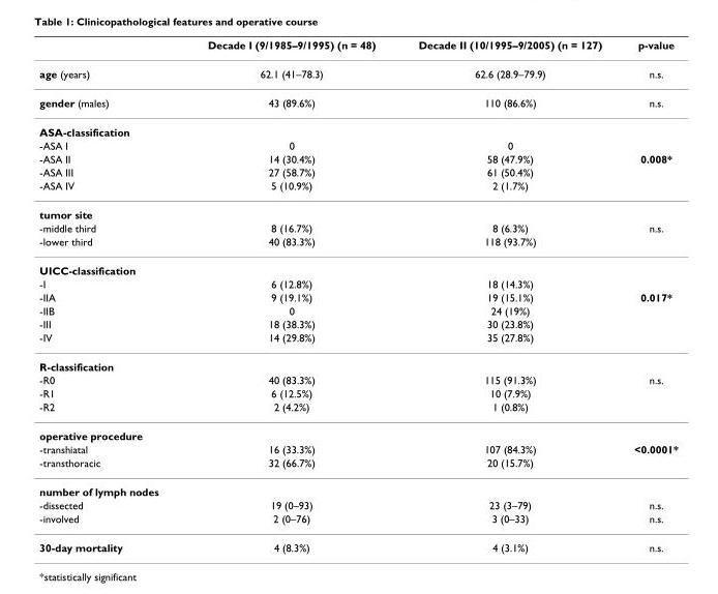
<table><thead><tr><td></td><td>Decade I (9/1985–9/1995) (n = 48)</td><td>Decade II (10/1995–9/2005) (n = 127)</td><td>p-value</td></tr></thead><tbody><tr><td>age (years)</td><td>62.1 (41–78.3)</td><td>62.6 (28.9–79.9)</td><td>n.s.</td></tr><tr><td>gender (males)</td><td>43 (89.6%)</td><td>110 (86.6%)</td><td>n.s.</td></tr><tr><td colspan="4">ASA-classification</td></tr><tr><td>-ASA I</td><td>0</td><td>0</td><td></td></tr><tr><td>-ASA II</td><td>14 (30.4%)</td><td>58 (47.9%)</td><td>0.008*</td></tr><tr><td>-ASA III</td><td>27 (58.7%)</td><td>61 (50.4%)</td><td></td></tr><tr><td>-ASA IV</td><td>5 (10.9%)</td><td>2 (1.7%)</td><td></td></tr><tr><td colspan="4">tumor site</td></tr><tr><td>-middle third</td><td>8 (16.7%)</td><td>8 (6.3%)</td><td>n.s.</td></tr><tr><td>-lower third</td><td>40 (83.3%)</td><td>118 (93.7%)</td><td></td></tr><tr><td colspan="4">UICC-classification</td></tr><tr><td>-I</td><td>6 (12.8%)</td><td>18 (14.3%)</td><td></td></tr><tr><td>-IIA</td><td>9 (19.1%)</td><td>19 (15.1%)</td><td>0.017*</td></tr><tr><td>-IIB</td><td>0</td><td>24 (19%)</td><td></td></tr><tr><td>-III</td><td>18 (38.3%)</td><td>30 (23.8%)</td><td></td></tr><tr><td>-IV</td><td>14 (29.8%)</td><td>35 (27.8%)</td><td></td></tr><tr><td colspan="4">R-classification</td></tr><tr><td>-R0</td><td>40 (83.3%)</td><td>115 (91.3%)</td><td>n.s.</td></tr><tr><td>-R1</td><td>6 (12.5%)</td><td>10 (7.9%)</td><td></td></tr><tr><td>-R2</td><td>2 (4.2%)</td><td>1 (0.8%)</td><td></td></tr><tr><td colspan="4">operative procedure</td></tr><tr><td>-transhiatal</td><td>16 (33.3%)</td><td>107 (84.3%)</td><td>&lt;0.0001*</td></tr><tr><td>-transthoracic</td><td>32 (66.7%)</td><td>20 (15.7%)</td><td></td></tr><tr><td colspan="4">number of lymph nodes</td></tr><tr><td>-dissected</td><td>19 (0–93)</td><td>23 (3–79)</td><td>n.s.</td></tr><tr><td>-involved</td><td>2 (0–76)</td><td>3 (0–33)</td><td>n.s.</td></tr><tr><td>30-day mortality</td><td>4 (8.3%)</td><td>4 (3.1%)</td><td>n.s.</td></tr></tbody></table>